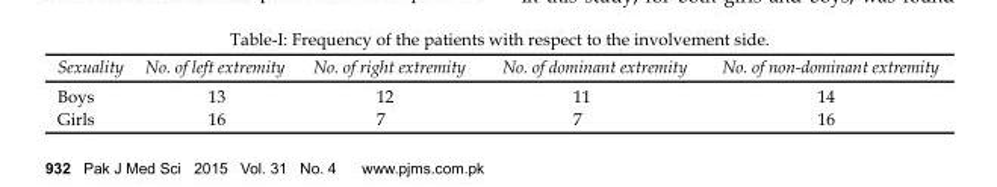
<table><thead><tr><td>Sexuality</td><td>No. of left extremity</td><td>No. of right extremity</td><td>No. of dominant extremity</td><td>No. of non-dominant extremity</td></tr></thead><tbody><tr><td>Boys</td><td>13</td><td>12</td><td>11</td><td>14</td></tr><tr><td>Girls</td><td>16</td><td>7</td><td>7</td><td>16</td></tr></tbody></table>